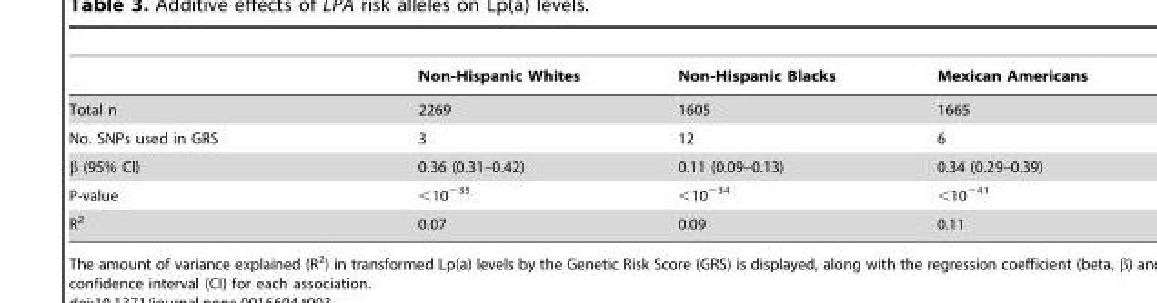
<table><thead><tr><td></td><td>Non-Hispanic Whites</td><td>Non-Hispanic Blacks</td><td>Mexican Americans</td></tr></thead><tbody><tr><td>Total n</td><td>2269</td><td>1605</td><td>1665</td></tr><tr><td>No. SNPs used in GRS</td><td>3</td><td>12</td><td>6</td></tr><tr><td>β (95% CI)</td><td>0.36 (0.31–0.42)</td><td>0.11 (0.09–0.13)</td><td>0.34 (0.29–0.39)</td></tr><tr><td>P-value</td><td>&lt;10<sup>−35</sup></td><td>&lt;10<sup>−34</sup></td><td>&lt;10<sup>−41</sup></td></tr><tr><td>R<sup>2</sup></td><td>0.07</td><td>0.09</td><td>0.11</td></tr></tbody></table>